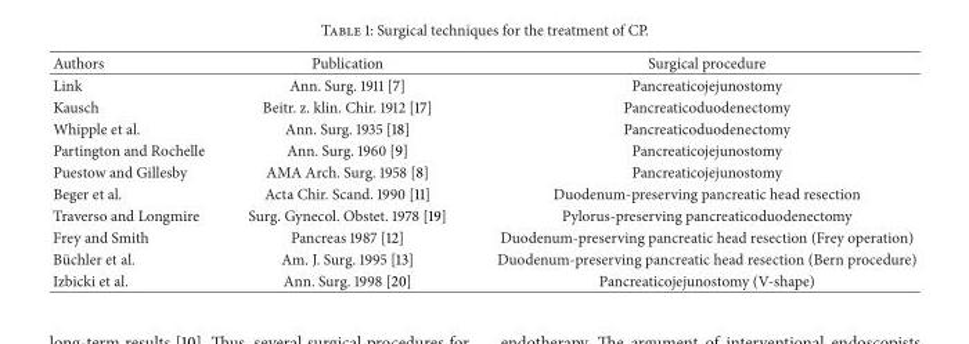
<table><thead><tr><td>Authors</td><td>Publication</td><td>Surgical procedure</td></tr></thead><tbody><tr><td>Link</td><td>Ann. Surg. 1911 [7]</td><td>Pancreaticojejunostomy</td></tr><tr><td>Kausch</td><td>Beitr. z. klin. Chir. 1912 [17]</td><td>Pancreaticoduodenectomy</td></tr><tr><td>Whipple et al.</td><td>Ann. Surg. 1935 [18]</td><td>Pancreaticoduodenectomy</td></tr><tr><td>Partington and Rochelle</td><td>Ann. Surg. 1960 [9]</td><td>Pancreaticojejunostomy</td></tr><tr><td>Puestow and Gillesby</td><td>AMA Arch. Surg. 1958 [8]</td><td>Pancreaticojejunostomy</td></tr><tr><td>Beger et al.</td><td>Acta Chir. Scand. 1990 [11]</td><td>Duodenum-preserving pancreatic head resection</td></tr><tr><td>Traverso and Longmire</td><td>Surg. Gynecol. Obstet. 1978 [19]</td><td>Pylorus-preserving pancreaticoduodenectomy</td></tr><tr><td>Frey and Smith</td><td>Pancreas 1987 [12]</td><td>Duodenum-preserving pancreatic head resection (Frey operation)</td></tr><tr><td>B¨uchler et al.</td><td>Am. J. Surg. 1995 [13]</td><td>Duodenum-preserving pancreatic head resection (Bern procedure)</td></tr><tr><td>Izbicki et al.</td><td>Ann. Surg. 1998 [20]</td><td>Pancreaticojejunostomy (V-shape)</td></tr></tbody></table>